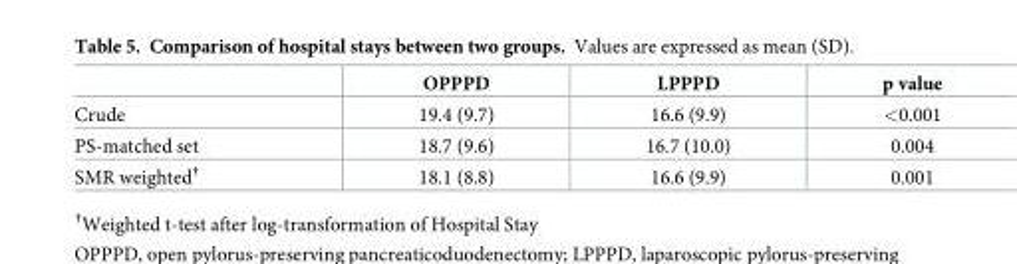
<table><thead><tr><td></td><td>OPPPD</td><td>LPPPD</td><td>p value</td></tr></thead><tbody><tr><td>Crude</td><td>19.4 (9.7)</td><td>16.6 (9.9)</td><td>&lt;0.001</td></tr><tr><td>PS-matched set</td><td>18.7 (9.6)</td><td>16.7 (10.0)</td><td>0.004</td></tr><tr><td>SMR weighted<sup>†</sup></td><td>18.1 (8.8)</td><td>16.6 (9.9)</td><td>0.001</td></tr></tbody></table>